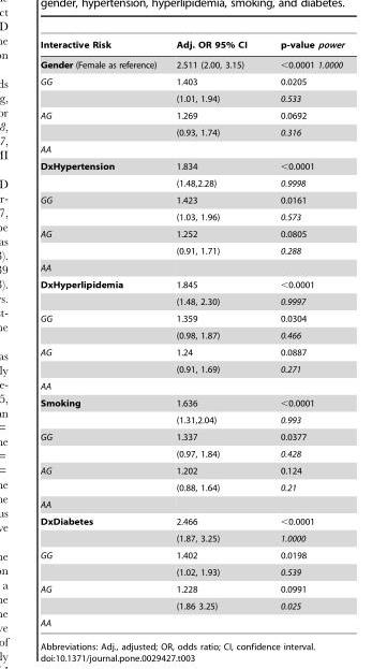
<table><thead><tr><td>Interactive Risk</td><td>Adj. OR 95% CI</td><td>p-value power</td></tr></thead><tbody><tr><td>Gender (Female as reference)</td><td>2.511 (2.00, 3.15)</td><td>&lt;0.0001 1.0000</td></tr><tr><td rowspan="2">GG</td><td>1.403</td><td>0.0205</td></tr><tr><td>(1.01, 1.94)</td><td>0.533</td></tr><tr><td rowspan="2">AG</td><td>1.269</td><td>0.0692</td></tr><tr><td>(0.93, 1.74)</td><td>0.316</td></tr><tr><td colspan="3">AA</td></tr><tr><td rowspan="2">DxHypertension</td><td>1.834</td><td>&lt;0.0001</td></tr><tr><td>(1.48,2.28)</td><td>0.9998</td></tr><tr><td rowspan="2">GG</td><td>1.423</td><td>0.0161</td></tr><tr><td>(1.03, 1.96)</td><td>0.573</td></tr><tr><td rowspan="2">AG</td><td>1.252</td><td>0.0805</td></tr><tr><td>(0.91, 1.71)</td><td>0.288</td></tr><tr><td colspan="3">AA</td></tr><tr><td rowspan="2">DxHyperlipidemia</td><td>1.845</td><td>&lt;0.0001</td></tr><tr><td>(1.48, 2.30)</td><td>0.9997</td></tr><tr><td rowspan="2">GG</td><td>1.359</td><td>0.0304</td></tr><tr><td>(0.98, 1.87)</td><td>0.466</td></tr><tr><td rowspan="2">AG</td><td>1.24</td><td>0.0887</td></tr><tr><td>(0.91, 1.69)</td><td>0.271</td></tr><tr><td colspan="3">AA</td></tr><tr><td rowspan="2">Smoking</td><td>1.636</td><td>&lt;0.0001</td></tr><tr><td>(1.31,2.04)</td><td>0.993</td></tr><tr><td rowspan="2">GG</td><td>1.337</td><td>0.0377</td></tr><tr><td>(0.97, 1.84)</td><td>0.428</td></tr><tr><td rowspan="2">AG</td><td>1.202</td><td>0.124</td></tr><tr><td>(0.88, 1.64)</td><td>0.21</td></tr><tr><td colspan="3">AA</td></tr><tr><td rowspan="2">DxDiabetes</td><td>2.466</td><td>&lt;0.0001</td></tr><tr><td>(1.87, 3.25)</td><td>1.0000</td></tr><tr><td rowspan="2">GG</td><td>1.402</td><td>0.0198</td></tr><tr><td>(1.02, 1.93)</td><td>0.539</td></tr><tr><td rowspan="2">AG</td><td>1.228</td><td>0.0991</td></tr><tr><td>(1.86 3.25)</td><td>0.025</td></tr><tr><td>AA</td><td></td><td></td></tr></tbody></table>